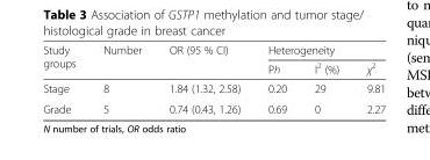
<table><thead><tr><td rowspan="2">Study groups</td><td rowspan="2">Number</td><td rowspan="2">OR (95 % CI)</td><td colspan="3">Heterogeneity</td></tr><tr><td>Ph</td><td>I<sup>2</sup> (%)</td><td>χ<sup>2</sup></td></tr></thead><tbody><tr><td>Stage</td><td>8</td><td>1.84 (1.32, 2.58)</td><td>0.20</td><td>29</td><td>9.81</td></tr><tr><td>Grade</td><td>5</td><td>0.74 (0.43, 1.26)</td><td>0.69</td><td>0</td><td>2.27</td></tr></tbody></table>